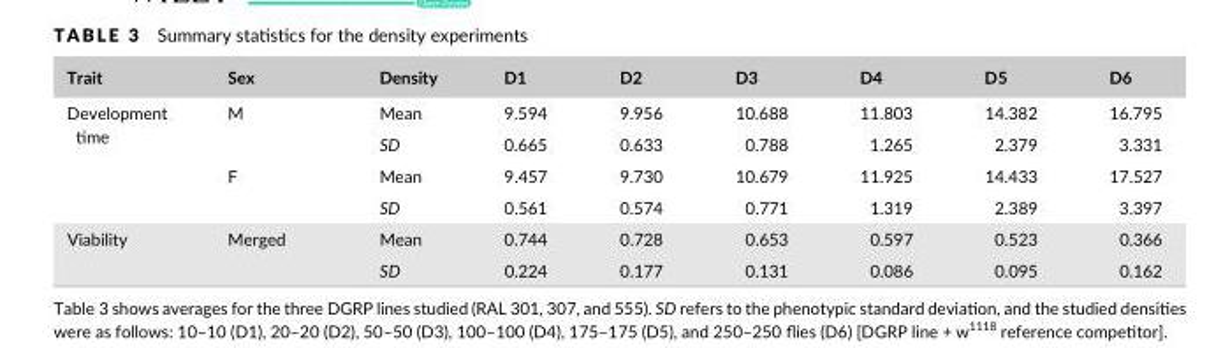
<table><thead><tr><td>Trait</td><td>Sex</td><td>Density</td><td>D1</td><td>D2</td><td>D3</td><td>D4</td><td>D5</td><td>D6</td></tr></thead><tbody><tr><td rowspan="4">Development time</td><td rowspan="2">M</td><td>Mean</td><td>9.594</td><td>9.956</td><td>10.688</td><td>11.803</td><td>14.382</td><td>16.795</td></tr><tr><td>SD</td><td>0.665</td><td>0.633</td><td>0.788</td><td>1.265</td><td>2.379</td><td>3.331</td></tr><tr><td rowspan="2">F</td><td>Mean</td><td>9.457</td><td>9.730</td><td>10.679</td><td>11.925</td><td>14.433</td><td>17.527</td></tr><tr><td>SD</td><td>0.561</td><td>0.574</td><td>0.771</td><td>1.319</td><td>2.389</td><td>3.397</td></tr><tr><td rowspan="2">Viability</td><td rowspan="2">Merged</td><td>Mean</td><td>0.744</td><td>0.728</td><td>0.653</td><td>0.597</td><td>0.523</td><td>0.366</td></tr><tr><td>SD</td><td>0.224</td><td>0.177</td><td>0.131</td><td>0.086</td><td>0.095</td><td>0.162</td></tr></tbody></table>